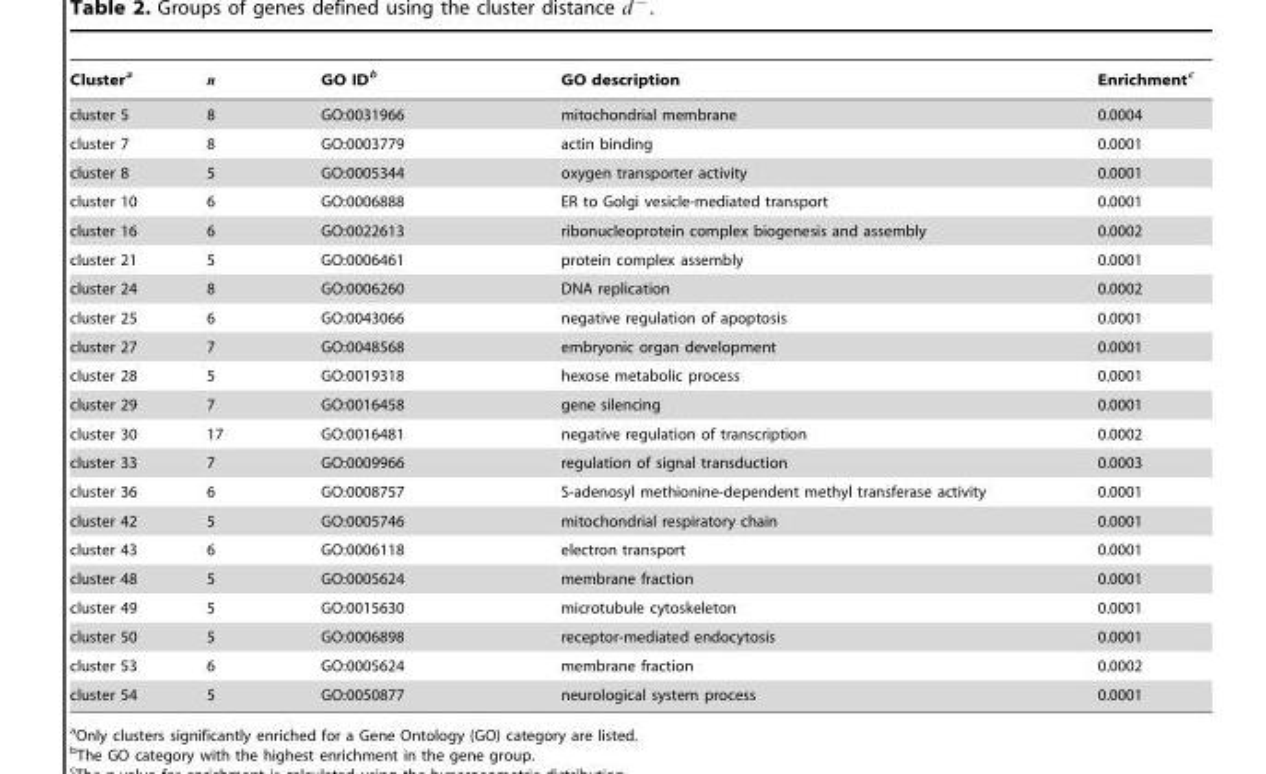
<table><thead><tr><td>Cluster<sup>a</sup></td><td>n</td><td>GO ID<sup>b</sup></td><td>GO description</td><td>Enrichment<sup>c</sup></td></tr></thead><tbody><tr><td>cluster 5</td><td>8</td><td>GO:0031966</td><td>mitochondrial membrane</td><td>0.0004</td></tr><tr><td>cluster 7</td><td>8</td><td>GO:0003779</td><td>actin binding</td><td>0.0001</td></tr><tr><td>cluster 8</td><td>5</td><td>GO:0005344</td><td>oxygen transporter activity</td><td>0.0001</td></tr><tr><td>cluster 10</td><td>6</td><td>GO:0006888</td><td>ER to Golgi vesicle-mediated transport</td><td>0.0001</td></tr><tr><td>cluster 16</td><td>6</td><td>GO:0022613</td><td>ribonucleoprotein complex biogenesis and assembly</td><td>0.0002</td></tr><tr><td>cluster 21</td><td>5</td><td>GO:0006461</td><td>protein complex assembly</td><td>0.0001</td></tr><tr><td>cluster 24</td><td>8</td><td>GO:0006260</td><td>DNA replication</td><td>0.0002</td></tr><tr><td>cluster 25</td><td>6</td><td>GO:0043066</td><td>negative regulation of apoptosis</td><td>0.0001</td></tr><tr><td>cluster 27</td><td>7</td><td>GO:0048568</td><td>embryonic organ development</td><td>0.0001</td></tr><tr><td>cluster 28</td><td>5</td><td>GO:0019318</td><td>hexose metabolic process</td><td>0.0001</td></tr><tr><td>cluster 29</td><td>7</td><td>GO:0016458</td><td>gene silencing</td><td>0.0001</td></tr><tr><td>cluster 30</td><td>17</td><td>GO:0016481</td><td>negative regulation of transcription</td><td>0.0002</td></tr><tr><td>cluster 33</td><td>7</td><td>GO:0009966</td><td>regulation of signal transduction</td><td>0.0003</td></tr><tr><td>cluster 36</td><td>6</td><td>GO:0008757</td><td>S-adenosyl methionine-dependent methyl transferase activity</td><td>0.0001</td></tr><tr><td>cluster 42</td><td>5</td><td>GO:0005746</td><td>mitochondrial respiratory chain</td><td>0.0001</td></tr><tr><td>cluster 43</td><td>6</td><td>GO:0006118</td><td>electron transport</td><td>0.0001</td></tr><tr><td>cluster 48</td><td>5</td><td>GO:0005624</td><td>membrane fraction</td><td>0.0001</td></tr><tr><td>cluster 49</td><td>5</td><td>GO:0015630</td><td>microtubule cytoskeleton</td><td>0.0001</td></tr><tr><td>cluster 50</td><td>5</td><td>GO:0006898</td><td>receptor-mediated endocytosis</td><td>0.0001</td></tr><tr><td>cluster 53</td><td>6</td><td>GO:0005624</td><td>membrane fraction</td><td>0.0002</td></tr><tr><td>cluster 54</td><td>5</td><td>GO:0050877</td><td>neurological system process</td><td>0.0001</td></tr></tbody></table>